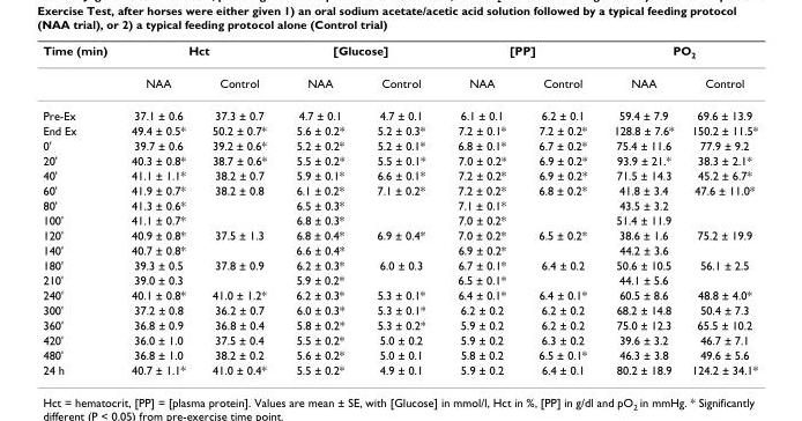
<table><thead><tr><td rowspan="2">Time (min)</td><td colspan="2">Hct</td><td colspan="2">[Glucose]</td><td colspan="2">[PP]</td><td colspan="2">PO<sub>2</sub></td></tr><tr><td>NAA</td><td>Control</td><td>NAA</td><td>Control</td><td>NAA</td><td>Control</td><td>NAA</td><td>Control</td></tr></thead><tbody><tr><td>Pre-Ex</td><td>37.1 ± 0.6</td><td>37.3 ± 0.7</td><td>4.7 ± 0.1</td><td>4.7 ± 0.1</td><td>6.1 ± 0.1</td><td>6.2 ± 0.1</td><td>59.4 ± 7.9</td><td>69.6 ± 13.9</td></tr><tr><td>End Ex</td><td>49.4 ± 0.5*</td><td>50.2 ± 0.7*</td><td>5.6 ± 0.2*</td><td>5.2 ± 0.3*</td><td>7.2 ± 0.1*</td><td>7.2 ± 0.2*</td><td>128.8 ± 7.6*</td><td>150.2 ± 11.5*</td></tr><tr><td>0&#x27;</td><td>39.7 ± 0.6</td><td>39.2 ± 0.6*</td><td>5.2 ± 0.2*</td><td>5.2 ± 0.1*</td><td>6.8 ± 0.1*</td><td>6.7 ± 0.2*</td><td>75.4 ± 11.6</td><td>77.9 ± 9.2</td></tr><tr><td>20&#x27;</td><td>40.3 ± 0.8*</td><td>38.7 ± 0.6*</td><td>5.5 ± 0.2*</td><td>5.5 ± 0.1*</td><td>7.0 ± 0.2*</td><td>6.9 ± 0.2*</td><td>93.9 ± 21.*</td><td>38.3 ± 2.1*</td></tr><tr><td>40&#x27;</td><td>41.1 ± 1.1*</td><td>38.2 ± 0.7</td><td>5.9 ± 0.1*</td><td>6.6 ± 0.1*</td><td>7.2 ± 0.2*</td><td>6.9 ± 0.2*</td><td>71.5 ± 14.3</td><td>45.2 ± 6.7*</td></tr><tr><td>60&#x27;</td><td>41.9 ± 0.7*</td><td>38.2 ± 0.8</td><td>6.1 ± 0.2*</td><td>7.1 ± 0.2*</td><td>7.2 ± 0.2*</td><td>6.8 ± 0.2*</td><td>41.8 ± 3.4</td><td>47.6 ± 11.0*</td></tr><tr><td>80&#x27;</td><td>41.3 ± 0.6*</td><td></td><td>6.5 ± 0.3*</td><td></td><td>7.1 ± 0.1*</td><td></td><td>43.5 ± 3.2</td><td></td></tr><tr><td>100&#x27;</td><td>41.1 ± 0.7*</td><td></td><td>6.8 ± 0.3*</td><td></td><td>7.0 ± 0.2*</td><td></td><td>51.4 ± 11.9</td><td></td></tr><tr><td>120&#x27;</td><td>40.9 ± 0.8*</td><td>37.5 ± 1.3</td><td>6.8 ± 0.4*</td><td>6.9 ± 0.4*</td><td>7.0 ± 0.2*</td><td>6.5 ± 0.2*</td><td>38.6 ± 1.6</td><td>75.2 ± 19.9</td></tr><tr><td>140&#x27;</td><td>40.7 ± 0.8*</td><td></td><td>6.6 ± 0.4*</td><td></td><td>6.9 ± 0.2*</td><td></td><td>44.2 ± 3.6</td><td></td></tr><tr><td>180&#x27;</td><td>39.3 ± 0.5</td><td>37.8 ± 0.9</td><td>6.2 ± 0.3*</td><td>6.0 ± 0.3</td><td>6.7 ± 0.1*</td><td>6.4 ± 0.2</td><td>50.6 ± 10.5</td><td>56.1 ± 2.5</td></tr><tr><td>210&#x27;</td><td>39.0 ± 0.3</td><td></td><td>5.9 ± 0.2*</td><td></td><td>6.5 ± 0.1*</td><td></td><td>44.1 ± 5.6</td><td></td></tr><tr><td>240&#x27;</td><td>40.1 ± 0.8*</td><td>41.0 ± 1.2*</td><td>6.2 ± 0.3*</td><td>5.3 ± 0.1*</td><td>6.4 ± 0.1*</td><td>6.4 ± 0.1*</td><td>60.5 ± 8.6</td><td>48.8 ± 4.0*</td></tr><tr><td>300&#x27;</td><td>37.2 ± 0.8</td><td>36.2 ± 0.7</td><td>6.0 ± 0.3*</td><td>5.3 ± 0.1*</td><td>6.2 ± 0.2</td><td>6.2 ± 0.2</td><td>68.2 ± 14.8</td><td>50.4 ± 7.3</td></tr><tr><td>360&#x27;</td><td>36.8 ± 0.9</td><td>36.8 ± 0.4</td><td>5.8 ± 0.2*</td><td>5.3 ± 0.2*</td><td>5.9 ± 0.2</td><td>6.2 ± 0.2</td><td>75.0 ± 12.3</td><td>65.5 ± 10.2</td></tr><tr><td>420&#x27;</td><td>36.0 ± 1.0</td><td>37.5 ± 0.4</td><td>5.5 ± 0.2*</td><td>5.0 ± 0.2</td><td>5.9 ± 0.2</td><td>6.3 ± 0.2</td><td>39.6 ± 3.2</td><td>46.7 ± 7.1</td></tr><tr><td>480&#x27;</td><td>36.8 ± 1.0</td><td>38.2 ± 0.2</td><td>5.6 ± 0.2*</td><td>5.0 ± 0.1</td><td>5.8 ± 0.2</td><td>6.5 ± 0.1*</td><td>46.3 ± 3.8</td><td>49.6 ± 5.6</td></tr><tr><td>24 h</td><td>40.7 ± 1.1*</td><td>41.0 ± 0.4*</td><td>5.5 ± 0.2*</td><td>4.9 ± 0.1</td><td>5.9 ± 0.2</td><td>6.4 ± 0.1</td><td>80.2 ± 18.9</td><td>124.2 ± 34.1*</td></tr></tbody></table>